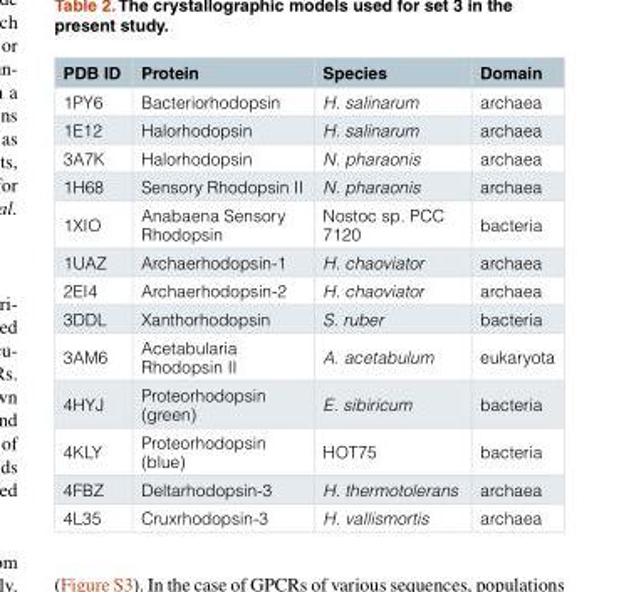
<table><thead><tr><td>PDB ID</td><td>Protein</td><td>Species</td><td>Domain</td></tr></thead><tbody><tr><td>1PY6</td><td>Bacteriorhodopsin</td><td>H. salinarum</td><td>archaea</td></tr><tr><td>1E12</td><td>Halorhodopsin</td><td>H. salinarum</td><td>archaea</td></tr><tr><td>3A7K</td><td>Halorhodopsin</td><td>N. pharaonis</td><td>archaea</td></tr><tr><td>1H68</td><td>Sensory Rhodopsin II</td><td>N. pharaonis</td><td>archaea</td></tr><tr><td>1XIO</td><td>Anabaena Sensory Rhodopsin</td><td>Nostoc sp. PCC 7120</td><td>bacteria</td></tr><tr><td>1UAZ</td><td>Archaerhodopsin-1</td><td>H. chaoviator</td><td>archaea</td></tr><tr><td>2EI4</td><td>Archaerhodopsin-2</td><td>H. chaoviator</td><td>archaea</td></tr><tr><td>3DDL</td><td>Xanthorhodopsin</td><td>S. ruber</td><td>bacteria</td></tr><tr><td>3AM6</td><td>Acetabularia Rhodopsin II</td><td>A. acetabulum</td><td>eukaryota</td></tr><tr><td>4HYJ</td><td>Proteorhodopsin (green)</td><td>E. sibiricum</td><td>bacteria</td></tr><tr><td>4KLY</td><td>Proteorhodopsin (blue)</td><td>HOT75</td><td>bacteria</td></tr><tr><td>4FBZ</td><td>Deltarhodopsin-3</td><td>H. thermotolerans</td><td>archaea</td></tr><tr><td>4L35</td><td>Cruxrhodopsin-3</td><td>H. vallismortis</td><td>archaea</td></tr></tbody></table>